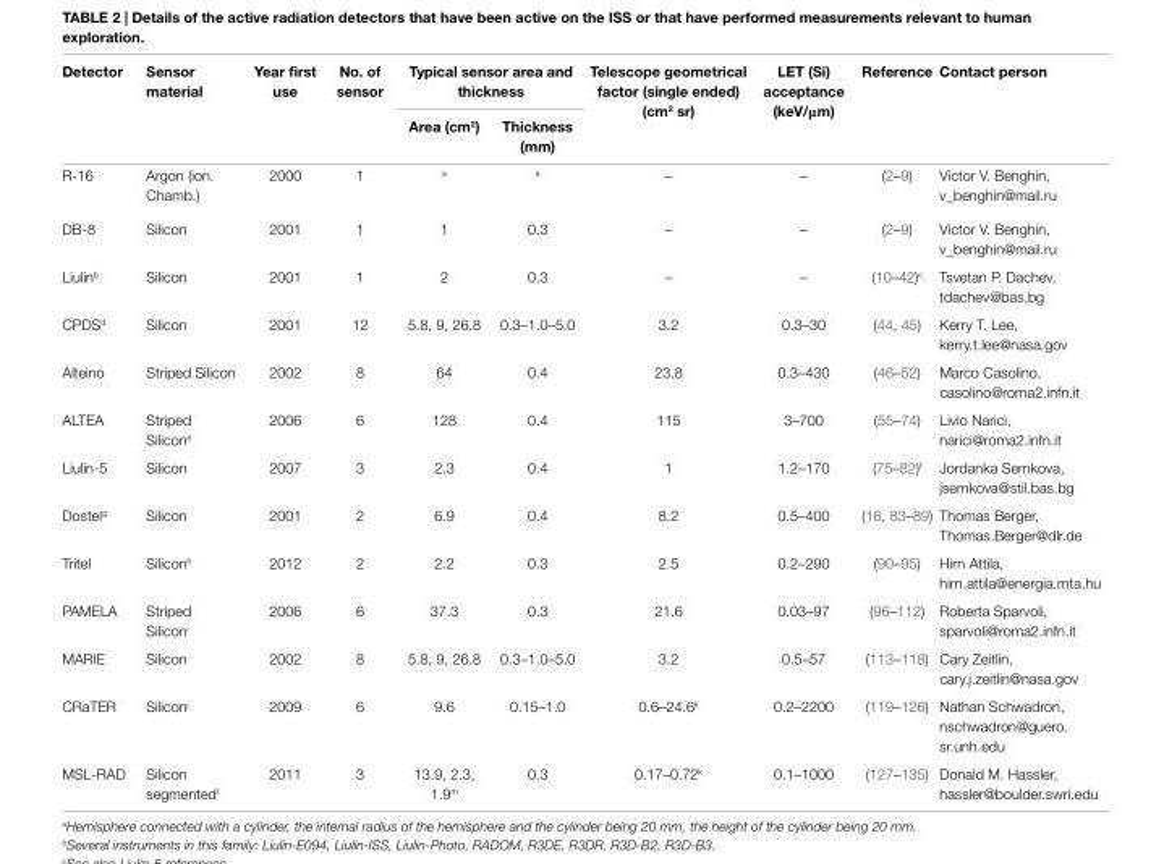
<table><thead><tr><td rowspan="2">Detector</td><td rowspan="2">Sensor material</td><td rowspan="2">Year first use</td><td rowspan="2">no. of sensor</td><td colspan="2">Typical sensor area and thickness</td><td rowspan="2">Telescope geometrical factor (single ended) (cm<sup>2</sup> sr)</td><td rowspan="2">LeT (Si) acceptance (kev/μm)</td><td rowspan="2">Reference</td><td rowspan="2">Contact person</td></tr><tr><td>Area (cm<sup>2</sup>)</td><td>Thickness (mm)</td></tr></thead><tbody><tr><td>R-16</td><td>Argon (ion. Chamb.)</td><td>2000</td><td>1</td><td><sup>a</sup></td><td><sup>a</sup></td><td>–</td><td>–</td><td>(2–9)</td><td>Victor V. Benghin, v_benghin@mail.ru</td></tr><tr><td>DB-8</td><td>Silicon</td><td>2001</td><td>1</td><td>1</td><td>0.3</td><td>–</td><td>–</td><td>(2–9)</td><td>Victor V. Benghin, v_benghin@mail.ru</td></tr><tr><td>Liulin<sup>b</sup></td><td>Silicon</td><td>2001</td><td>1</td><td>2</td><td>0.3</td><td>–</td><td>–</td><td>(10–42)<sup>c</sup></td><td>Tsvetan P. Dachev, tdachev@bas.bg</td></tr><tr><td>CPDS<sup>d</sup></td><td>Silicon</td><td>2001</td><td>12</td><td>5.8, 9, 26.8</td><td>0.3–1.0–5.0</td><td>3.2</td><td>0.3–30</td><td>(44, 45)</td><td>Kerry T. Lee, kerry.t.lee@nasa.gov</td></tr><tr><td>Alteino</td><td>Striped Silicon</td><td>2002</td><td>8</td><td>64</td><td>0.4</td><td>23.8</td><td>0.3–430</td><td>(46–52)</td><td>Marco Casolino, casolino@roma2.infn.it</td></tr><tr><td>ALTEA</td><td>Striped Silicon<sup>e</sup></td><td>2006</td><td>6</td><td>128</td><td>0.4</td><td>115</td><td>3–700</td><td>(55–74)</td><td>Livio Narici, narici@roma2.infn.it</td></tr><tr><td>Liulin-5</td><td>Silicon</td><td>2007</td><td>3</td><td>2.3</td><td>0.4</td><td>1</td><td>1.2–170</td><td>(75–82)<sup>f</sup></td><td>Jordanka Semkova, jsemkova@stil.bas.bg</td></tr><tr><td>Dostel<sup>g</sup></td><td>Silicon</td><td>2001</td><td>2</td><td>6.9</td><td>0.4</td><td>8.2</td><td>0.5–400</td><td>(16, 83–89)</td><td>Thomas Berger, Thomas.Berger@dlr.de</td></tr><tr><td>Tritel</td><td>Silicon<sup>h</sup></td><td>2012</td><td>2</td><td>2.2</td><td>0.3</td><td>2.5</td><td>0.2–290</td><td>(90–95)</td><td>Hirn Attila, hirn.attila@energia.mta.hu</td></tr><tr><td>PAMELA</td><td>Striped Silicon<sup>i</sup></td><td>2006</td><td>6</td><td>37.3</td><td>0.3</td><td>21.6</td><td>0.03–97</td><td>(96–112)</td><td>Roberta Sparvoli, sparvoli@roma2.infn.it</td></tr><tr><td>MARIE</td><td>Silicon</td><td>2002</td><td>8</td><td>5.8, 9, 26.8</td><td>0.3–1.0–5.0</td><td>3.2</td><td>0.5–57</td><td>(113–118)</td><td>Cary Zeitlin, cary.j.zeitlin@nasa.gov</td></tr><tr><td>CRaTER</td><td>Silicon<sup>j</sup></td><td>2009</td><td>6</td><td>9.6</td><td>0.15–1.0</td><td>0.6–24.6<sup>k</sup></td><td>0.2–2200</td><td>(119–126)</td><td>Nathan Schwadron, nschwadron@guero. sr.unh.edu</td></tr><tr><td>MSL-RAD</td><td>Silicon segmented<sup>l</sup></td><td>2011</td><td>3</td><td>13.9, 2.3, 1.9<sup>m</sup></td><td>0.3</td><td>0.17–0.72<sup>k</sup></td><td>0.1–1000</td><td>(127–135)</td><td>Donald M. Hassler, hassler@boulder.swri.edu</td></tr></tbody></table>